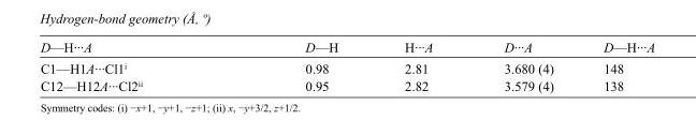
<table><tbody><tr><td>D—H···A</td><td>D—H</td><td>H···A</td><td>D···A</td><td>D—H···A</td></tr><tr><td>C1—H1A···Cl1<sup>i</sup></td><td>0.98</td><td>2.81</td><td>3.680 (4)</td><td>148</td></tr><tr><td>C12—H12A···Cl2<sup>ii</sup></td><td>0.95</td><td>2.82</td><td>3.579 (4)</td><td>138</td></tr></tbody></table>